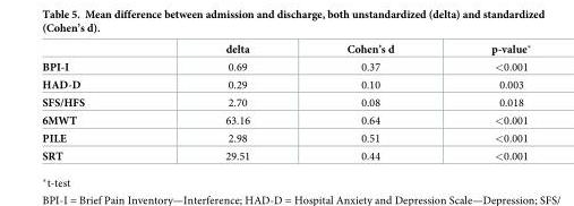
<table><thead><tr><td></td><td>delta</td><td>Cohen’s d</td><td>p-value*</td></tr></thead><tbody><tr><td>BPI-I</td><td>0.69</td><td>0.37</td><td>&lt;0.001</td></tr><tr><td>HAD-D</td><td>0.29</td><td>0.10</td><td>0.003</td></tr><tr><td>SFS/HFS</td><td>2.70</td><td>0.08</td><td>0.018</td></tr><tr><td>6MWT</td><td>63.16</td><td>0.64</td><td>&lt;0.001</td></tr><tr><td>PILE</td><td>2.98</td><td>0.51</td><td>&lt;0.001</td></tr><tr><td>SRT</td><td>29.51</td><td>0.44</td><td>&lt;0.001</td></tr></tbody></table>